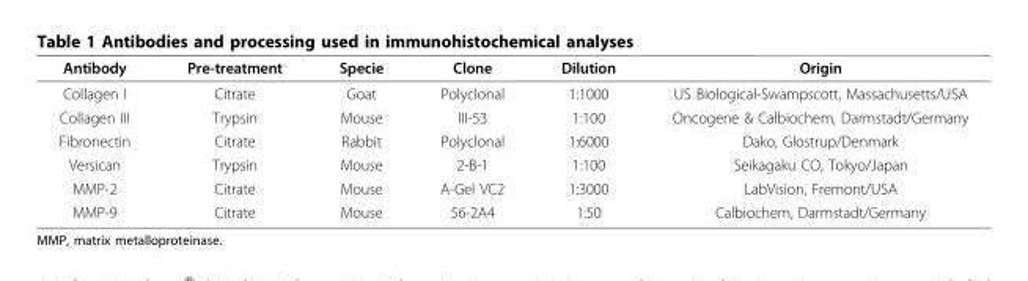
<table><thead><tr><td>Antibody</td><td>Pre-treatment</td><td>Specie</td><td>Clone</td><td>Dilution</td><td>Origin</td></tr></thead><tbody><tr><td>Collagen I</td><td>Citrate</td><td>Goat</td><td>Polyclonal</td><td>1:1000</td><td>US Biological-Swampscott, Massachusetts/USA</td></tr><tr><td>Collagen III</td><td>Trypsin</td><td>Mouse</td><td>III-53</td><td>1:100</td><td>Oncogene &amp; Calbiochem, Darmstadt/Germany</td></tr><tr><td>Fibronectin</td><td>Citrate</td><td>Rabbit</td><td>Polyclonal</td><td>1:6000</td><td>Dako, Glostrup/Denmark</td></tr><tr><td>Versican</td><td>Trypsin</td><td>Mouse</td><td>2-B-1</td><td>1:100</td><td>Seikagaku CO, Tokyo/Japan</td></tr><tr><td>MMP-2</td><td>Citrate</td><td>Mouse</td><td>A-Gel VC2</td><td>1:3000</td><td>LabVision, Fremont/USA</td></tr><tr><td>MMP-9</td><td>Citrate</td><td>Mouse</td><td>56-2A4</td><td>1:50</td><td>Calbiochem, Darmstadt/Germany</td></tr></tbody></table>